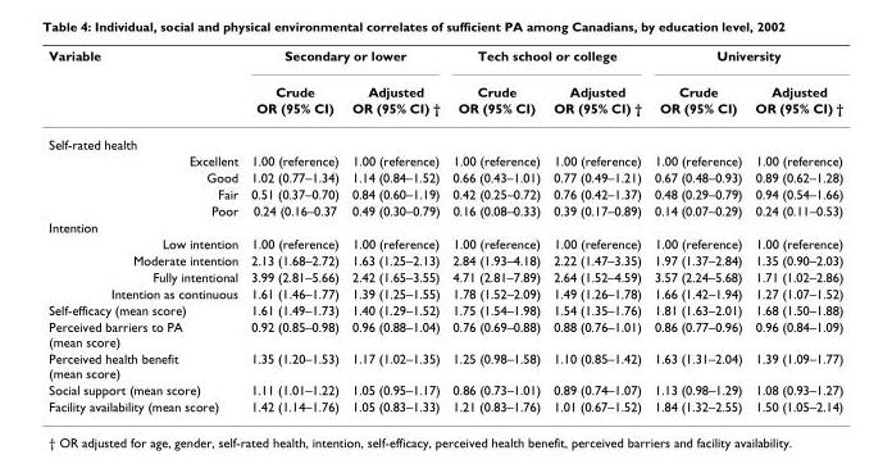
<table><thead><tr><td rowspan="3">Variable</td><td colspan="2">Secondary or lower</td><td colspan="2">Tech school or college</td><td colspan="2">University</td></tr><tr><td rowspan="2">Crude OR (95% CI)</td><td rowspan="2">Adjusted OR (95% CI) †</td><td rowspan="2">Crude OR (95% CI)</td><td rowspan="2">Adjusted OR (95% CI) †</td><td rowspan="2">Crude OR (95% CI)</td><td rowspan="2">Adjusted OR (95% CI) †</td></tr><tr></tr></thead><tbody><tr><td colspan="7">Self-rated health</td></tr><tr><td>Excellent</td><td>1.00 (reference)</td><td>1.00 (reference)</td><td>1.00 (reference)</td><td>1.00 (reference)</td><td>1.00 (reference)</td><td>1.00 (reference)</td></tr><tr><td>Good</td><td>1.02 (0.77–1.34)</td><td>1.14 (0.84–1.52)</td><td>0.66 (0.43–1.01)</td><td>0.77 (0.49–1.21)</td><td>0.67 (0.48–0.93)</td><td>0.89 (0.62–1.28)</td></tr><tr><td>Fair</td><td>0.51 (0.37–0.70)</td><td>0.84 (0.60–1.19)</td><td>0.42 (0.25–0.72)</td><td>0.76 (0.42–1.37)</td><td>0.48 (0.29–0.79)</td><td>0.94 (0.54–1.66)</td></tr><tr><td>Poor</td><td>0.24 (0.16–0.37</td><td>0.49 (0.30–0.79)</td><td>0.16 (0.08–0.33)</td><td>0.39 (0.17–0.89)</td><td>0.14 (0.07–0.29)</td><td>0.24 (0.11–0.53)</td></tr><tr><td colspan="7">Intention</td></tr><tr><td>Low intention</td><td>1.00 (reference)</td><td>1.00 (reference)</td><td>1.00 (reference)</td><td>1.00 (reference)</td><td>1.00 (reference)</td><td>1.00 (reference)</td></tr><tr><td>Moderate intention</td><td>2.13 (1.68–2.72)</td><td>1.63 (1.25–2.13)</td><td>2.84 (1.93–4.18)</td><td>2.22 (1.47–3.35)</td><td>1.97 (1.37–2.84)</td><td>1.35 (0.90–2.03)</td></tr><tr><td>Fully intentional</td><td>3.99 (2.81–5.66)</td><td>2.42 (1.65–3.55)</td><td>4.71 (2.81–7.89)</td><td>2.64 (1.52–4.59)</td><td>3.57 (2.24–5.68)</td><td>1.71 (1.02–2.86)</td></tr><tr><td>Intention as continuous</td><td>1.61 (1.46–1.77)</td><td>1.39 (1.25–1.55)</td><td>1.78 (1.52–2.09)</td><td>1.49 (1.26–1.78)</td><td>1.66 (1.42–1.94)</td><td>1.27 (1.07–1.52)</td></tr><tr><td>Self-efficacy (mean score)</td><td>1.61 (1.49–1.73)</td><td>1.40 (1.29–1.52)</td><td>1.75 (1.54–1.98)</td><td>1.54 (1.35–1.76)</td><td>1.81 (1.63–2.01)</td><td>1.68 (1.50–1.88)</td></tr><tr><td>Perceived barriers to PA (mean score)</td><td>0.92 (0.85–0.98)</td><td>0.96 (0.88–1.04)</td><td>0.76 (0.69–0.88)</td><td>0.88 (0.76–1.01)</td><td>0.86 (0.77–0.96)</td><td>0.96 (0.84–1.09)</td></tr><tr><td>Perceived health benefit (mean score)</td><td>1.35 (1.20–1.53)</td><td>1.17 (1.02–1.35)</td><td>1.25 (0.98–1.58)</td><td>1.10 (0.85–1.42)</td><td>1.63 (1.31–2.04)</td><td>1.39 (1.09–1.77)</td></tr><tr><td>Social support (mean score)</td><td>1.11 (1.01–1.22)</td><td>1.05 (0.95–1.17)</td><td>0.86 (0.73–1.01)</td><td>0.89 (0.74–1.07)</td><td>1.13 (0.98–1.29)</td><td>1.08 (0.93–1.27)</td></tr><tr><td>Facility availability (mean score)</td><td>1.42 (1.14–1.76)</td><td>1.05 (0.83–1.33)</td><td>1.21 (0.83–1.76)</td><td>1.01 (0.67–1.52)</td><td>1.84 (1.32–2.55)</td><td>1.50 (1.05–2.14)</td></tr></tbody></table>